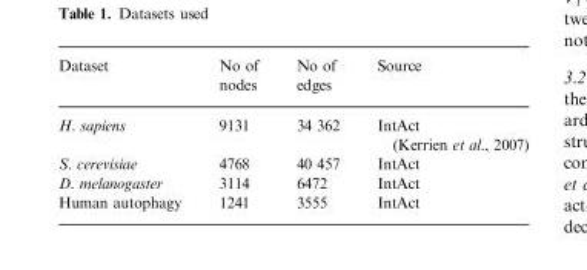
<table><thead><tr><td>Dataset</td><td>No of nodes</td><td>No of edges</td><td>Source</td></tr></thead><tbody><tr><td>H. sapiens</td><td>9131</td><td>34 362</td><td>IntAct (Kerrien et al., 2007)</td></tr><tr><td>S. cerevisiae</td><td>4768</td><td>40 457</td><td>IntAct</td></tr><tr><td>D. melanogaster</td><td>3114</td><td>6472</td><td>IntAct</td></tr><tr><td>Human autophagy</td><td>1241</td><td>3555</td><td>IntAct</td></tr></tbody></table>